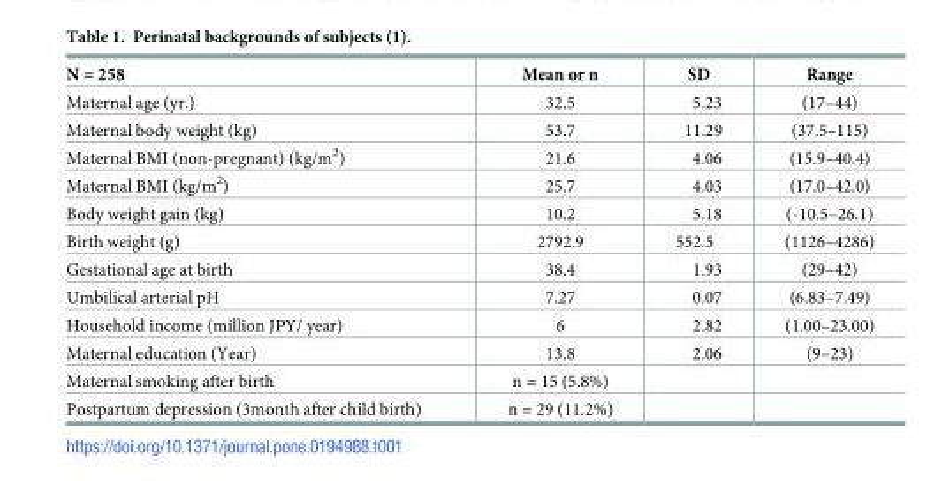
<table><thead><tr><td>N = 258</td><td>Mean or n</td><td>SD</td><td>Range</td></tr></thead><tbody><tr><td>Maternal age (yr.)</td><td>32.5</td><td>5.23</td><td>(17–44)</td></tr><tr><td>Maternal body weight (kg)</td><td>53.7</td><td>11.29</td><td>(37.5–115)</td></tr><tr><td>Maternal BMI (non-pregnant) (kg/m<sup>2</sup>)</td><td>21.6</td><td>4.06</td><td>(15.9–40.4)</td></tr><tr><td>Maternal BMI (kg/m<sup>2</sup>)</td><td>25.7</td><td>4.03</td><td>(17.0–42.0)</td></tr><tr><td>Body weight gain (kg)</td><td>10.2</td><td>5.18</td><td>(-10.5–26.1)</td></tr><tr><td>Birth weight (g)</td><td>2792.9</td><td>552.5</td><td>(1126–4286)</td></tr><tr><td>Gestational age at birth</td><td>38.4</td><td>1.93</td><td>(29–42)</td></tr><tr><td>Umbilical arterial pH</td><td>7.27</td><td>0.07</td><td>(6.83–7.49)</td></tr><tr><td>Household income (million JPY/ year)</td><td>6</td><td>2.82</td><td>(1.00–23.00)</td></tr><tr><td>Maternal education (Year)</td><td>13.8</td><td>2.06</td><td>(9–23)</td></tr><tr><td>Maternal smoking after birth</td><td>n = 15 (5.8%)</td><td></td><td></td></tr><tr><td>Postpartum depression (3month after child birth)</td><td>n = 29 (11.2%)</td><td></td><td></td></tr></tbody></table>